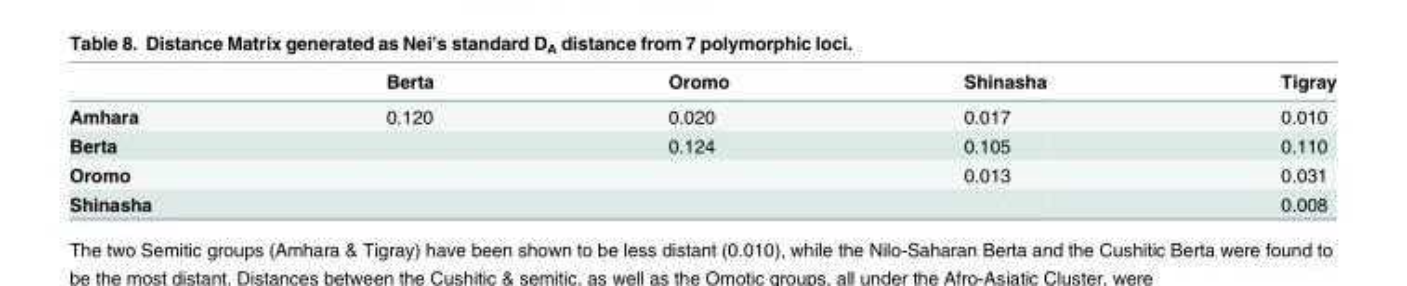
<table><thead><tr><td></td><td>Berta</td><td>Oromo</td><td>Shinasha</td><td>Tigray</td></tr></thead><tbody><tr><td>Amhara</td><td>0.120</td><td>0.020</td><td>0.017</td><td>0.010</td></tr><tr><td>Berta</td><td></td><td>0.124</td><td>0.105</td><td>0.110</td></tr><tr><td>Oromo</td><td></td><td></td><td>0.013</td><td>0.031</td></tr><tr><td>Shinasha</td><td></td><td></td><td></td><td>0.008</td></tr></tbody></table>